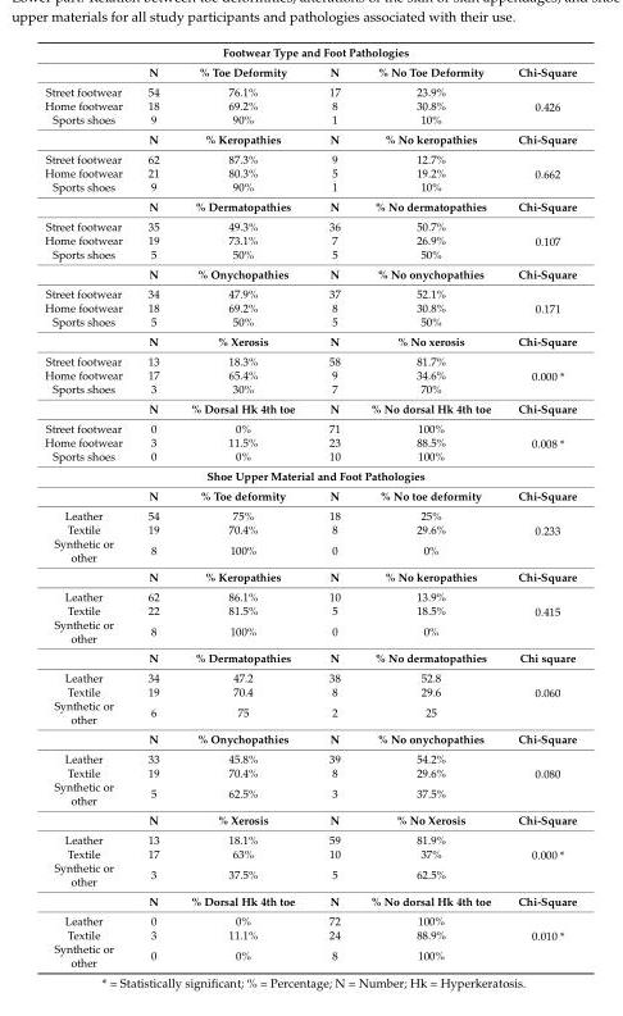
<table><thead><tr><td colspan="6">Footwear Type and Foot Pathologies</td></tr><tr><td></td><td>N</td><td>% Toe Deformity</td><td>N</td><td>% No Toe Deformity</td><td>Chi-Square</td></tr></thead><tbody><tr><td>Street footwear</td><td>54</td><td>76.1%</td><td>17</td><td>23.9%</td><td rowspan="3">0.426</td></tr><tr><td>Home footwear</td><td>18</td><td>69.2%</td><td>8</td><td>30.8%</td></tr><tr><td rowspan="2">Sports shoes</td><td>9</td><td>90%</td><td>1</td><td>10%</td></tr><tr><td>N</td><td>% Keropathies</td><td>N</td><td>% No keropathies</td><td>Chi-Square</td></tr><tr><td>Street footwear</td><td>62</td><td>87.3%</td><td>9</td><td>12.7%</td><td rowspan="3">0.662</td></tr><tr><td>Home footwear</td><td>21</td><td>80.3%</td><td>5</td><td>19.2%</td></tr><tr><td rowspan="2">Sports shoes</td><td>9</td><td>90%</td><td>1</td><td>10%</td></tr><tr><td>N</td><td>% Dermatopathies</td><td>N</td><td>% No dermatopathies</td><td>Chi-Square</td></tr><tr><td>Street footwear</td><td>35</td><td>49.3%</td><td>36</td><td>50.7%</td><td rowspan="3">0.107</td></tr><tr><td>Home footwear</td><td>19</td><td>73.1%</td><td>7</td><td>26.9%</td></tr><tr><td rowspan="2">Sports shoes</td><td>5</td><td>50%</td><td>5</td><td>50%</td></tr><tr><td>N</td><td>% Onychopathies</td><td>N</td><td>% No onychopathies</td><td>Chi-Square</td></tr><tr><td>Street footwear</td><td>34</td><td>47.9%</td><td>37</td><td>52.1%</td><td rowspan="3">0.171</td></tr><tr><td>Home footwear</td><td>18</td><td>69.2%</td><td>8</td><td>30.8%</td></tr><tr><td rowspan="2">Sports shoes</td><td>5</td><td>50%</td><td>5</td><td>50%</td></tr><tr><td>N</td><td>% Xerosis</td><td>N</td><td>% No xerosis</td><td>Chi-Square</td></tr><tr><td>Street footwear</td><td>13</td><td>18.3%</td><td>58</td><td>81.7%</td><td rowspan="3">0.000 *</td></tr><tr><td>Home footwear</td><td>17</td><td>65.4%</td><td>9</td><td>34.6%</td></tr><tr><td rowspan="2">Sports shoes</td><td>3</td><td>30%</td><td>7</td><td>70%</td></tr><tr><td>N</td><td>% Dorsal Hk 4th toe</td><td>N</td><td>% No dorsal Hk 4th toe</td><td>Chi-Square</td></tr><tr><td>Street footwear</td><td>0</td><td>0%</td><td>71</td><td>100%</td><td rowspan="3">0.008 *</td></tr><tr><td>Home footwear</td><td>3</td><td>11.5%</td><td>23</td><td>88.5%</td></tr><tr><td>Sports shoes</td><td>0</td><td>0%</td><td>10</td><td>100%</td></tr><tr><td colspan="6">Shoe Upper Material and Foot Pathologies</td></tr><tr><td></td><td>N</td><td>% Toe deformity</td><td>N</td><td>% No toe deformity</td><td>Chi-Square</td></tr><tr><td>Leather</td><td>54</td><td>75%</td><td>18</td><td>25%</td><td rowspan="3">0.233</td></tr><tr><td>Textile</td><td>19</td><td>70.4%</td><td>8</td><td>29.6%</td></tr><tr><td rowspan="2">Synthetic or other</td><td>8</td><td>100%</td><td>0</td><td>0%</td></tr><tr><td>N</td><td>% Keropathies</td><td>N</td><td>% No keropathies</td><td>Chi-Square</td></tr><tr><td>Leather</td><td>62</td><td>86.1%</td><td>10</td><td>13.9%</td><td rowspan="3">0.415</td></tr><tr><td>Textile</td><td>22</td><td>81.5%</td><td>5</td><td>18.5%</td></tr><tr><td rowspan="2">Synthetic or other</td><td>8</td><td>100%</td><td>0</td><td>0%</td></tr><tr><td>N</td><td>% Dermatopathies</td><td>N</td><td>% No dermatopathies</td><td>Chi square</td></tr><tr><td>Leather</td><td>34</td><td>47.2</td><td>38</td><td>52.8</td><td rowspan="3">0.060</td></tr><tr><td>Textile</td><td>19</td><td>70.4</td><td>8</td><td>29.6</td></tr><tr><td rowspan="2">Synthetic or other</td><td>6</td><td>75</td><td>2</td><td>25</td></tr><tr><td>N</td><td>% Onychopathies</td><td>N</td><td>% No onychopathies</td><td>Chi-Square</td></tr><tr><td>Leather</td><td>33</td><td>45.8%</td><td>39</td><td>54.2%</td><td rowspan="3">0.080</td></tr><tr><td>Textile</td><td>19</td><td>70.4%</td><td>8</td><td>29.6%</td></tr><tr><td rowspan="2">Synthetic or other</td><td>5</td><td>62.5%</td><td>3</td><td>37.5%</td></tr><tr><td>N</td><td>% Xerosis</td><td>N</td><td>% No Xerosis</td><td>Chi-Square</td></tr><tr><td>Leather</td><td>13</td><td>18.1%</td><td>59</td><td>81.9%</td><td rowspan="3">0.000 *</td></tr><tr><td>Textile</td><td>17</td><td>63%</td><td>10</td><td>37%</td></tr><tr><td rowspan="2">Synthetic or other</td><td>3</td><td>37.5%</td><td>5</td><td>62.5%</td></tr><tr><td>N</td><td>% Dorsal Hk 4th toe</td><td>N</td><td>% No dorsal Hk 4th toe</td><td>Chi-Square</td></tr><tr><td>Leather</td><td>0</td><td>0%</td><td>72</td><td>100%</td><td rowspan="3">0.010 *</td></tr><tr><td>Textile</td><td>3</td><td>11.1%</td><td>24</td><td>88.9%</td></tr><tr><td>Synthetic or other</td><td>0</td><td>0%</td><td>8</td><td>100%</td></tr></tbody></table>